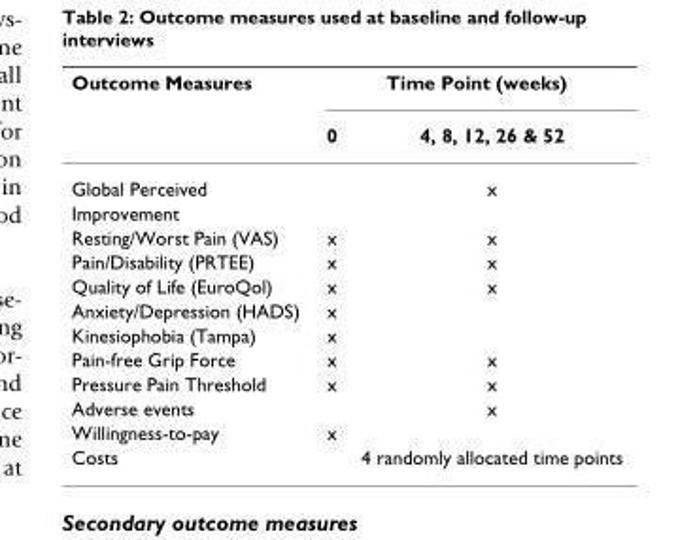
<table><thead><tr><td rowspan="2">Outcome Measures</td><td colspan="2">Time Point (weeks)</td></tr><tr><td>0</td><td>4, 8, 12, 26 &amp; 52</td></tr></thead><tbody><tr><td>Global Perceived</td><td></td><td>x</td></tr><tr><td colspan="3">Improvement</td></tr><tr><td>Resting/Worst Pain (VAS)</td><td>x</td><td>x</td></tr><tr><td>Pain/Disability (PRTEE)</td><td>x</td><td>x</td></tr><tr><td>Quality of Life (EuroQol)</td><td>x</td><td>x</td></tr><tr><td>Anxiety/Depression (HADS)</td><td>x</td><td></td></tr><tr><td>Kinesiophobia (Tampa)</td><td>x</td><td></td></tr><tr><td>Pain-free Grip Force</td><td>x</td><td>x</td></tr><tr><td>Pressure Pain Threshold</td><td>x</td><td>x</td></tr><tr><td>Adverse events</td><td></td><td>x</td></tr><tr><td>Willingness-to-pay</td><td>x</td><td></td></tr><tr><td>Costs</td><td></td><td>4 randomly allocated time points</td></tr></tbody></table>